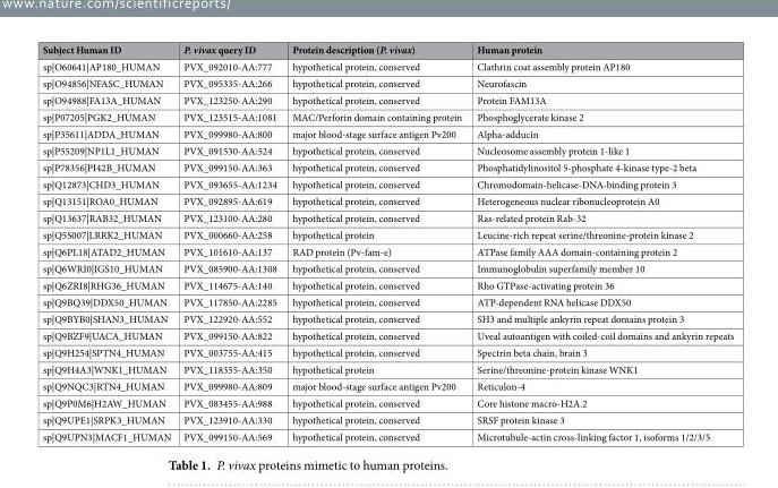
<table><thead><tr><td>Subject Human ID</td><td>P. vivax query ID</td><td>Protein description (P. vivax)</td><td>Human protein</td></tr></thead><tbody><tr><td>sp|O60641|AP180_HUMAN</td><td>PVX_092010-AA:777</td><td>hypothetical protein, conserved</td><td>Clathrin coat assembly protein AP180</td></tr><tr><td>sp|O94856|NFASC_HUMAN</td><td>PVX_095335-AA:266</td><td>hypothetical protein, conserved</td><td>Neurofascin</td></tr><tr><td>sp|O94988|FA13A_HUMAN</td><td>PVX_123250-AA:290</td><td>hypothetical protein, conserved</td><td>Protein FAM13A</td></tr><tr><td>sp|P07205|PGK2_HUMAN</td><td>PVX_123515-AA:1081</td><td>MAC/Perforin domain containing protein</td><td>Phosphoglycerate kinase 2</td></tr><tr><td>sp|P35611|ADDA_HUMAN</td><td>PVX_099980-AA:800</td><td>major blood-stage surface antigen Pv200</td><td>Alpha-adducin</td></tr><tr><td>sp|P55209|NP1L1_HUMAN</td><td>PVX_091530-AA:524</td><td>hypothetical protein, conserved</td><td>Nucleosome assembly protein 1-like 1</td></tr><tr><td>sp|P78356|PI42B_HUMAN</td><td>PVX_099150-AA:363</td><td>hypothetical protein, conserved</td><td>Phosphatidylinositol 5-phosphate 4-kinase type-2 beta</td></tr><tr><td>sp|Q12873|CHD3_HUMAN</td><td>PVX_093655-AA:1234</td><td>hypothetical protein, conserved</td><td>Chromodomain-helicase-DNA-binding protein 3</td></tr><tr><td>sp|Q13151|ROA0_HUMAN</td><td>PVX_092895-AA:619</td><td>hypothetical protein, conserved</td><td>Heterogeneous nuclear ribonucleoprotein A0</td></tr><tr><td>sp|Q13637|RAB32_HUMAN</td><td>PVX_123100-AA:280</td><td>hypothetical protein, conserved</td><td>Ras-related protein Rab-32</td></tr><tr><td>sp|Q5S007|LRRK2_HUMAN</td><td>PVX_000660-AA:258</td><td>hypothetical protein</td><td>Leucine-rich repeat serine/threonine-protein kinase 2</td></tr><tr><td>sp|Q6PL18|ATAD2_HUMAN</td><td>PVX_101610-AA:137</td><td>RAD protein (Pv-fam-e)</td><td>ATPase family AAA domain-containing protein 2</td></tr><tr><td>sp|Q6WRI0|IGS10_HUMAN</td><td>PVX_085900-AA:1308</td><td>hypothetical protein, conserved</td><td>Immunoglobulin superfamily member 10</td></tr><tr><td>sp|Q6ZRI8|RHG36_HUMAN</td><td>PVX_114675-AA:140</td><td>hypothetical protein, conserved</td><td>Rho GTPase-activating protein 36</td></tr><tr><td>sp|Q9BQ39|DDX50_HUMAN</td><td>PVX_117850-AA:2285</td><td>hypothetical protein, conserved</td><td>ATP-dependent RNA helicase DDX50</td></tr><tr><td>sp|Q9BYB0|SHAN3_HUMAN</td><td>PVX_122920-AA:552</td><td>hypothetical protein, conserved</td><td>SH3 and multiple ankyrin repeat domains protein 3</td></tr><tr><td>sp|Q9BZF9|UACA_HUMAN</td><td>PVX_099150-AA:822</td><td>hypothetical protein, conserved</td><td>Uveal autoantigen with coiled-coil domains and ankyrin repeats</td></tr><tr><td>sp|Q9H254|SPTN4_HUMAN</td><td>PVX_003755-AA:415</td><td>hypothetical protein, conserved</td><td>Spectrin beta chain, brain 3</td></tr><tr><td>sp|Q9H4A3|WNK1_HUMAN</td><td>PVX_118355-AA:350</td><td>hypothetical protein</td><td>Serine/threonine-protein kinase WNK1</td></tr><tr><td>sp|Q9NQC3|RTN4_HUMAN</td><td>PVX_099980-AA:809</td><td>major blood-stage surface antigen Pv200</td><td>Reticulon-4</td></tr><tr><td>sp|Q9P0M6|H2AW_HUMAN</td><td>PVX_083455-AA:988</td><td>hypothetical protein, conserved</td><td>Core histone macro-H2A.2</td></tr><tr><td>sp|Q9UPE1|SRPK3_HUMAN</td><td>PVX_123910-AA:330</td><td>hypothetical protein, conserved</td><td>SRSF protein kinase 3</td></tr><tr><td>sp|Q9UPN3|MACF1_HUMAN</td><td>PVX_099150-AA:569</td><td>hypothetical protein, conserved</td><td>Microtubule-actin cross-linking factor 1, isoforms 1/2/3/5</td></tr></tbody></table>